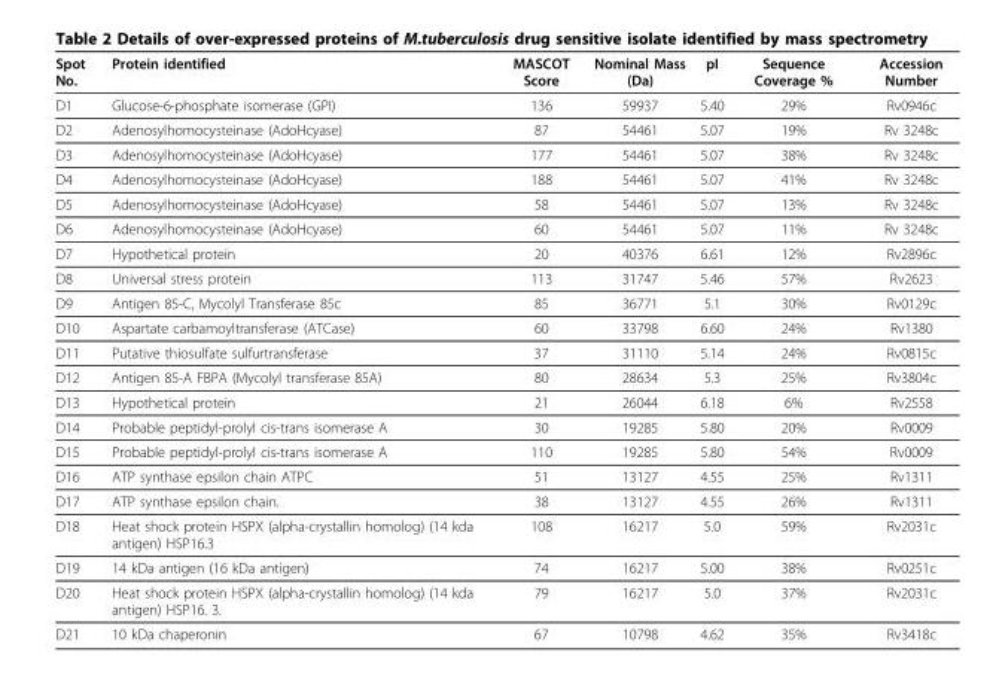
<table><thead><tr><td>Spot No.</td><td>Protein identified</td><td>MASCOT Score</td><td>Nominal Mass (Da)</td><td>pI</td><td>Sequence Coverage %</td><td>Accession Number</td></tr></thead><tbody><tr><td>D1</td><td>Glucose-6-phosphate isomerase (GPI)</td><td>136</td><td>59937</td><td>5.40</td><td>29%</td><td>Rv0946c</td></tr><tr><td>D2</td><td>Adenosylhomocysteinase (AdoHcyase)</td><td>87</td><td>54461</td><td>5.07</td><td>19%</td><td>Rv 3248c</td></tr><tr><td>D3</td><td>Adenosylhomocysteinase (AdoHcyase)</td><td>177</td><td>54461</td><td>5.07</td><td>38%</td><td>Rv 3248c</td></tr><tr><td>D4</td><td>Adenosylhomocysteinase (AdoHcyase)</td><td>188</td><td>54461</td><td>5.07</td><td>41%</td><td>Rv 3248c</td></tr><tr><td>D5</td><td>Adenosylhomocysteinase (AdoHcyase)</td><td>58</td><td>54461</td><td>5.07</td><td>13%</td><td>Rv 3248c</td></tr><tr><td>D6</td><td>Adenosylhomocysteinase (AdoHcyase)</td><td>60</td><td>54461</td><td>5.07</td><td>11%</td><td>Rv 3248c</td></tr><tr><td>D7</td><td>Hypothetical protein</td><td>20</td><td>40376</td><td>6.61</td><td>12%</td><td>Rv2896c</td></tr><tr><td>D8</td><td>Universal stress protein</td><td>113</td><td>31747</td><td>5.46</td><td>57%</td><td>Rv2623</td></tr><tr><td>D9</td><td>Antigen 85-C, Mycolyl Transferase 85c</td><td>85</td><td>36771</td><td>5.1</td><td>30%</td><td>Rv0129c</td></tr><tr><td>D10</td><td>Aspartate carbamoyltransferase (ATCase)</td><td>60</td><td>33798</td><td>6.60</td><td>24%</td><td>Rv1380</td></tr><tr><td>D11</td><td>Putative thiosulfate sulfurtransferase</td><td>37</td><td>31110</td><td>5.14</td><td>24%</td><td>Rv0815c</td></tr><tr><td>D12</td><td>Antigen 85-A FBPA (Mycolyl transferase 85A)</td><td>80</td><td>28634</td><td>5.3</td><td>25%</td><td>Rv3804c</td></tr><tr><td>D13</td><td>Hypothetical protein</td><td>21</td><td>26044</td><td>6.18</td><td>6%</td><td>Rv2558</td></tr><tr><td>D14</td><td>Probable peptidyl-prolyl cis-trans isomerase A</td><td>30</td><td>19285</td><td>5.80</td><td>20%</td><td>Rv0009</td></tr><tr><td>D15</td><td>Probable peptidyl-prolyl cis-trans isomerase A</td><td>110</td><td>19285</td><td>5.80</td><td>54%</td><td>Rv0009</td></tr><tr><td>D16</td><td>ATP synthase epsilon chain ATPC</td><td>51</td><td>13127</td><td>4.55</td><td>25%</td><td>Rv1311</td></tr><tr><td>D17</td><td>ATP synthase epsilon chain.</td><td>38</td><td>13127</td><td>4.55</td><td>26%</td><td>Rv1311</td></tr><tr><td>D18</td><td>Heat shock protein HSPX (alpha-crystallin homolog) (14 kda antigen) HSP16.3</td><td>108</td><td>16217</td><td>5.0</td><td>59%</td><td>Rv2031c</td></tr><tr><td>D19</td><td>14 kDa antigen (16 kDa antigen)</td><td>74</td><td>16217</td><td>5.00</td><td>38%</td><td>Rv0251c</td></tr><tr><td>D20</td><td>Heat shock protein HSPX (alpha-crystallin homolog) (14 kda antigen) HSP16. 3.</td><td>79</td><td>16217</td><td>5.0</td><td>37%</td><td>Rv2031c</td></tr><tr><td>D21</td><td>10 kDa chaperonin</td><td>67</td><td>10798</td><td>4.62</td><td>35%</td><td>Rv3418c</td></tr></tbody></table>